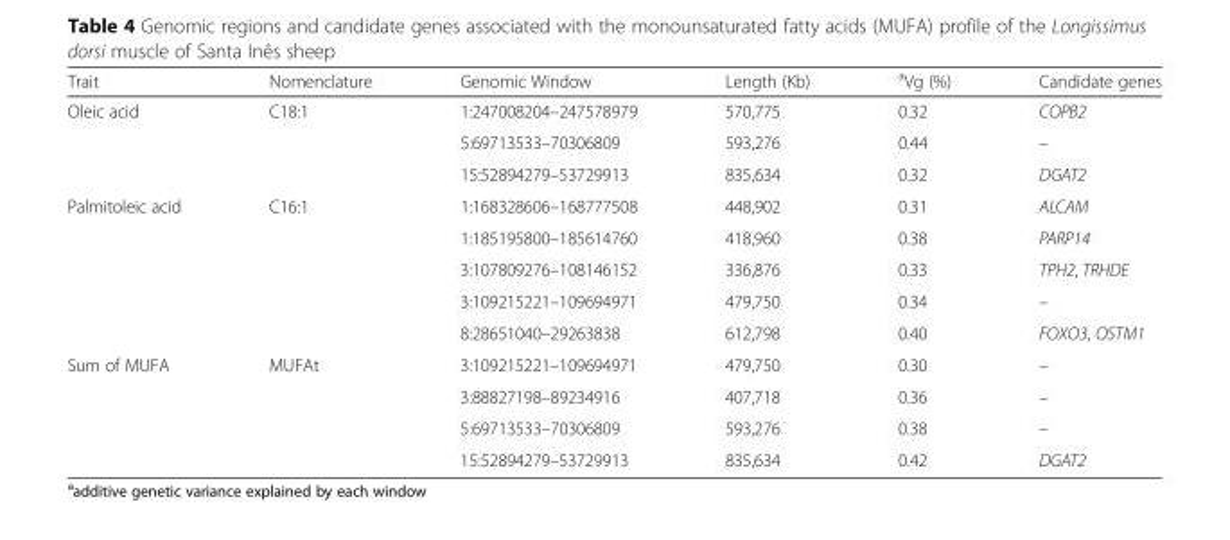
<table><thead><tr><td>Trait</td><td>Nomenclature</td><td>Genomic Window</td><td>Length (Kb)</td><td><sup>a</sup>Vg (%)</td><td>Candidate genes</td></tr></thead><tbody><tr><td rowspan="3">Oleic acid</td><td>C18:1</td><td>1:247008204–247578979</td><td>570,775</td><td>0.32</td><td>COPB2</td></tr><tr><td></td><td>5:69713533–70306809</td><td>593,276</td><td>0.44</td><td>–</td></tr><tr><td></td><td>15:52894279–53729913</td><td>835,634</td><td>0.32</td><td>DGAT2</td></tr><tr><td rowspan="5">Palmitoleic acid</td><td>C16:1</td><td>1:168328606–168777508</td><td>448,902</td><td>0.31</td><td>ALCAM</td></tr><tr><td></td><td>1:185195800–185614760</td><td>418,960</td><td>0.38</td><td>PARP14</td></tr><tr><td></td><td>3:107809276–108146152</td><td>336,876</td><td>0.33</td><td>TPH2, TRHDE</td></tr><tr><td></td><td>3:109215221–109694971</td><td>479,750</td><td>0.34</td><td>–</td></tr><tr><td></td><td>8:28651040–29263838</td><td>612,798</td><td>0.40</td><td>FOXO3, OSTM1</td></tr><tr><td rowspan="4">Sum of MUFA</td><td>MUFAt</td><td>3:109215221–109694971</td><td>479,750</td><td>0.30</td><td>–</td></tr><tr><td></td><td>3:88827198–89234916</td><td>407,718</td><td>0.36</td><td>–</td></tr><tr><td></td><td>5:69713533–70306809</td><td>593,276</td><td>0.38</td><td>–</td></tr><tr><td></td><td>15:52894279–53729913</td><td>835,634</td><td>0.42</td><td>DGAT2</td></tr></tbody></table>